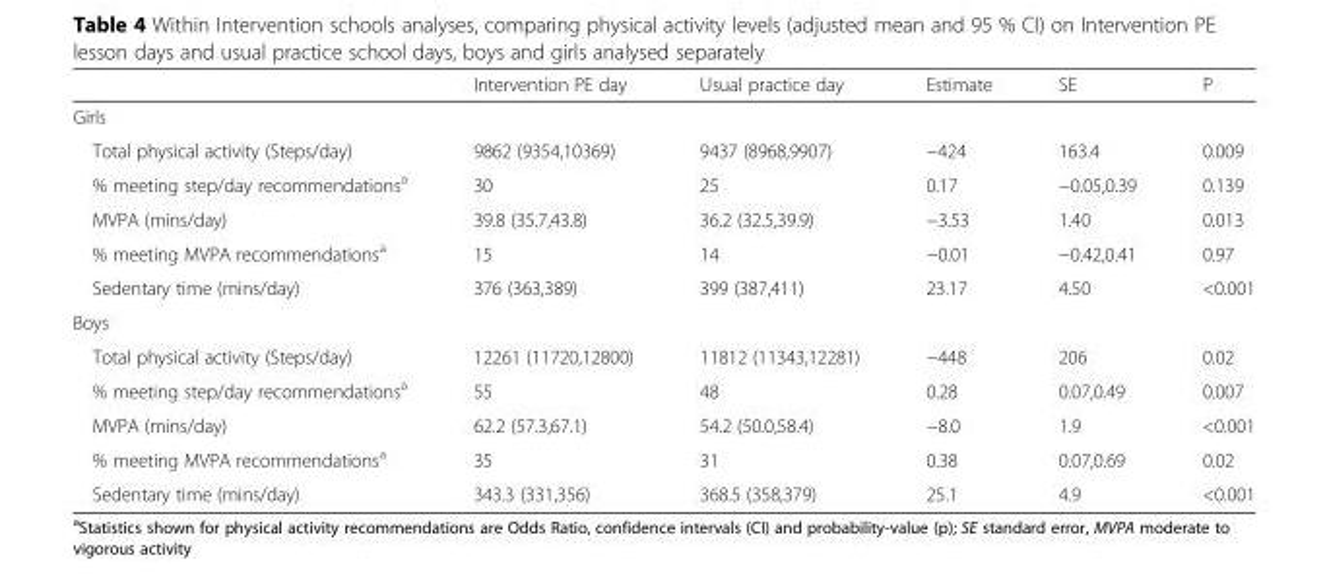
<table><thead><tr><td></td><td>Intervention PE day</td><td>Usual practice day</td><td>Estimate</td><td>SE</td><td>P</td></tr></thead><tbody><tr><td colspan="6">Girls</td></tr><tr><td>Total physical activity (Steps/day)</td><td>9862 (9354,10369)</td><td>9437 (8968,9907)</td><td>−424</td><td>163.4</td><td>0.009</td></tr><tr><td>% meeting step/day recommendations<sup>a</sup></td><td>30</td><td>25</td><td>0.17</td><td>−0.05,0.39</td><td>0.139</td></tr><tr><td>MVPA (mins/day)</td><td>39.8 (35.7,43.8)</td><td>36.2 (32.5,39.9)</td><td>−3.53</td><td>1.40</td><td>0.013</td></tr><tr><td>% meeting MVPA recommendations<sup>a</sup></td><td>15</td><td>14</td><td>−0.01</td><td>−0.42,0.41</td><td>0.97</td></tr><tr><td>Sedentary time (mins/day)</td><td>376 (363,389)</td><td>399 (387,411)</td><td>23.17</td><td>4.50</td><td>&lt;0.001</td></tr><tr><td colspan="6">Boys</td></tr><tr><td>Total physical activity (Steps/day)</td><td>12261 (11720,12800)</td><td>11812 (11343,12281)</td><td>−448</td><td>206</td><td>0.02</td></tr><tr><td>% meeting step/day recommendations<sup>a</sup></td><td>55</td><td>48</td><td>0.28</td><td>0.07,0.49</td><td>0.007</td></tr><tr><td>MVPA (mins/day)</td><td>62.2 (57.3,67.1)</td><td>54.2 (50.0,58.4)</td><td>−8.0</td><td>1.9</td><td>&lt;0.001</td></tr><tr><td>% meeting MVPA recommendations<sup>a</sup></td><td>35</td><td>31</td><td>0.38</td><td>0.07,0.69</td><td>0.02</td></tr><tr><td>Sedentary time (mins/day)</td><td>343.3 (331,356)</td><td>368.5 (358,379)</td><td>25.1</td><td>4.9</td><td>&lt;0.001</td></tr></tbody></table>